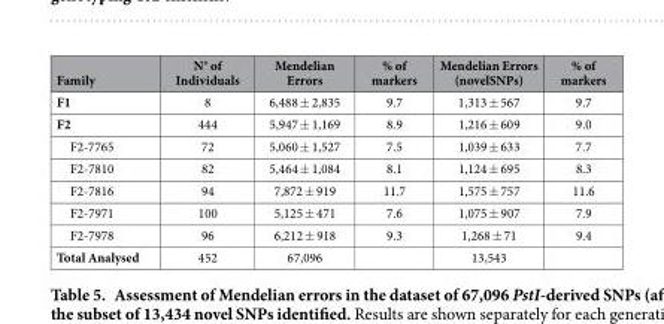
<table><thead><tr><td>Family</td><td>N° of Individuals</td><td>Mendelian Errors</td><td>% of markers</td><td>Mendelian Errors (novelSNPs)</td><td>% of markers</td></tr></thead><tbody><tr><td>F1</td><td>8</td><td>6,488 ± 2,835</td><td>9.7</td><td>1,313 ± 567</td><td>9.7</td></tr><tr><td>F2</td><td>444</td><td>5,947 ± 1,169</td><td>8.9</td><td>1,216 ± 609</td><td>9.0</td></tr><tr><td>F2-7765</td><td>72</td><td>5,060 ± 1,527</td><td>7.5</td><td>1,039 ± 633</td><td>7.7</td></tr><tr><td>F2-7810</td><td>82</td><td>5,464 ± 1,084</td><td>8.1</td><td>1,124 ± 695</td><td>8.3</td></tr><tr><td>F2-7816</td><td>94</td><td>7,872 ± 919</td><td>11.7</td><td>1,575 ± 757</td><td>11.6</td></tr><tr><td>F2-7971</td><td>100</td><td>5,125 ± 471</td><td>7.6</td><td>1,075 ± 907</td><td>7.9</td></tr><tr><td>F2-7978</td><td>96</td><td>6,212 ± 918</td><td>9.3</td><td>1,268 ± 71</td><td>9.4</td></tr><tr><td>Total Analysed</td><td>452</td><td>67,096</td><td></td><td>13,543</td><td></td></tr></tbody></table>